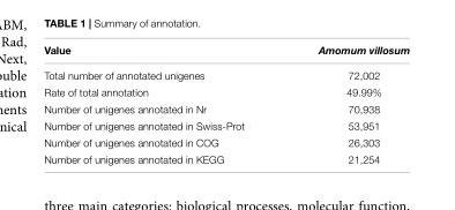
<table><thead><tr><td>Value</td><td>Amomum villosum</td></tr></thead><tbody><tr><td>Total number of annotated unigenes</td><td>72,002</td></tr><tr><td>Rate of total annotation</td><td>49.99%</td></tr><tr><td>Number of unigenes annotated in Nr</td><td>70,938</td></tr><tr><td>Number of unigenes annotated in Swiss-Prot</td><td>53,951</td></tr><tr><td>Number of unigenes annotated in COG</td><td>26,303</td></tr><tr><td>Number of unigenes annotated in KEGG</td><td>21,254</td></tr></tbody></table>